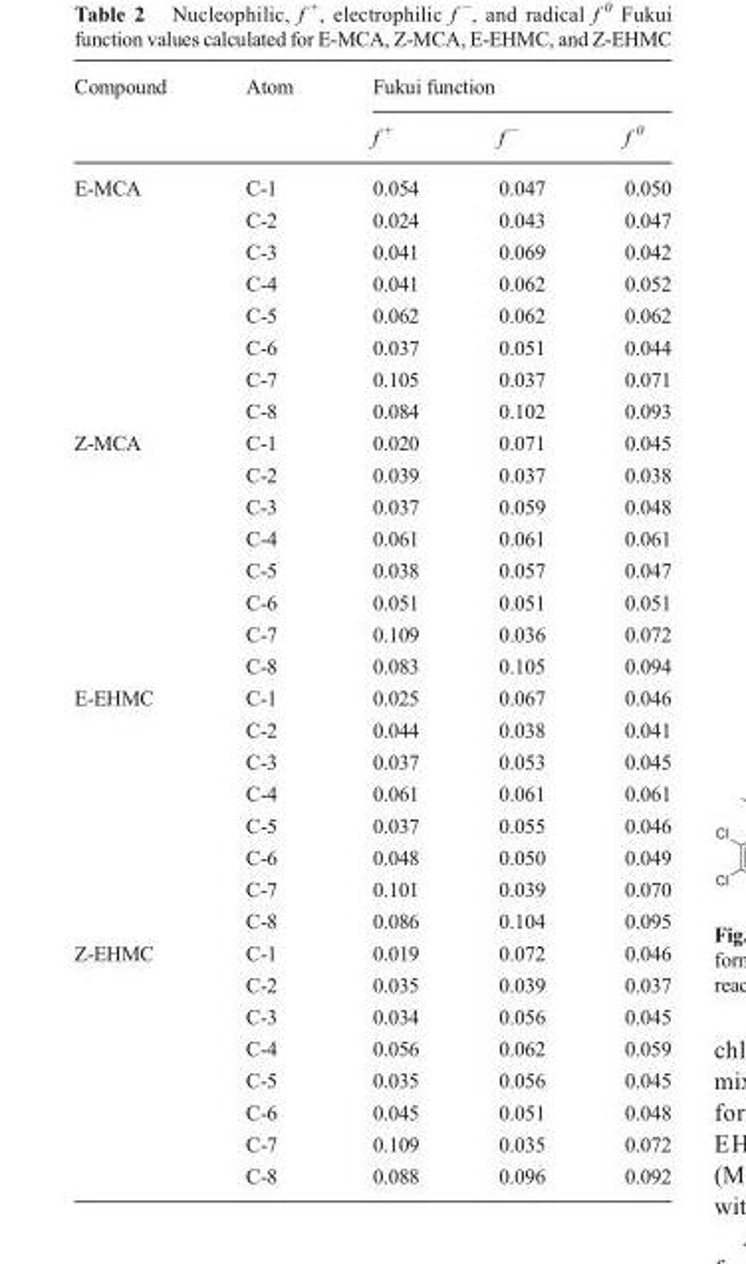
<table><thead><tr><td rowspan="2">Compound</td><td rowspan="2">Atom</td><td colspan="3">Fukui function</td></tr><tr><td>f <sup>+</sup></td><td>f <sup>−</sup></td><td>f <sup>0</sup></td></tr></thead><tbody><tr><td rowspan="8">E-MCA</td><td>C-1</td><td>0.054</td><td>0.047</td><td>0.050</td></tr><tr><td>C-2</td><td>0.024</td><td>0.043</td><td>0.047</td></tr><tr><td>C-3</td><td>0.041</td><td>0.069</td><td>0.042</td></tr><tr><td>C-4</td><td>0.041</td><td>0.062</td><td>0.052</td></tr><tr><td>C-5</td><td>0.062</td><td>0.062</td><td>0.062</td></tr><tr><td>C-6</td><td>0.037</td><td>0.051</td><td>0.044</td></tr><tr><td>C-7</td><td>0.105</td><td>0.037</td><td>0.071</td></tr><tr><td>C-8</td><td>0.084</td><td>0.102</td><td>0.093</td></tr><tr><td rowspan="8">Z-MCA</td><td>C-1</td><td>0.020</td><td>0.071</td><td>0.045</td></tr><tr><td>C-2</td><td>0.039</td><td>0.037</td><td>0.038</td></tr><tr><td>C-3</td><td>0.037</td><td>0.059</td><td>0.048</td></tr><tr><td>C-4</td><td>0.061</td><td>0.061</td><td>0.061</td></tr><tr><td>C-5</td><td>0.038</td><td>0.057</td><td>0.047</td></tr><tr><td>C-6</td><td>0.051</td><td>0.051</td><td>0.051</td></tr><tr><td>C-7</td><td>0.109</td><td>0.036</td><td>0.072</td></tr><tr><td>C-8</td><td>0.083</td><td>0.105</td><td>0.094</td></tr><tr><td rowspan="8">E-EHMC</td><td>C-1</td><td>0.025</td><td>0.067</td><td>0.046</td></tr><tr><td>C-2</td><td>0.044</td><td>0.038</td><td>0.041</td></tr><tr><td>C-3</td><td>0.037</td><td>0.053</td><td>0.045</td></tr><tr><td>C-4</td><td>0.061</td><td>0.061</td><td>0.061</td></tr><tr><td>C-5</td><td>0.037</td><td>0.055</td><td>0.046</td></tr><tr><td>C-6</td><td>0.048</td><td>0.050</td><td>0.049</td></tr><tr><td>C-7</td><td>0.101</td><td>0.039</td><td>0.070</td></tr><tr><td>C-8</td><td>0.086</td><td>0.104</td><td>0.095</td></tr><tr><td rowspan="8">Z-EHMC</td><td>C-1</td><td>0.019</td><td>0.072</td><td>0.046</td></tr><tr><td>C-2</td><td>0.035</td><td>0.039</td><td>0.037</td></tr><tr><td>C-3</td><td>0.034</td><td>0.056</td><td>0.045</td></tr><tr><td>C-4</td><td>0.056</td><td>0.062</td><td>0.059</td></tr><tr><td>C-5</td><td>0.035</td><td>0.056</td><td>0.045</td></tr><tr><td>C-6</td><td>0.045</td><td>0.051</td><td>0.048</td></tr><tr><td>C-7</td><td>0.109</td><td>0.035</td><td>0.072</td></tr><tr><td>C-8</td><td>0.088</td><td>0.096</td><td>0.092</td></tr></tbody></table>